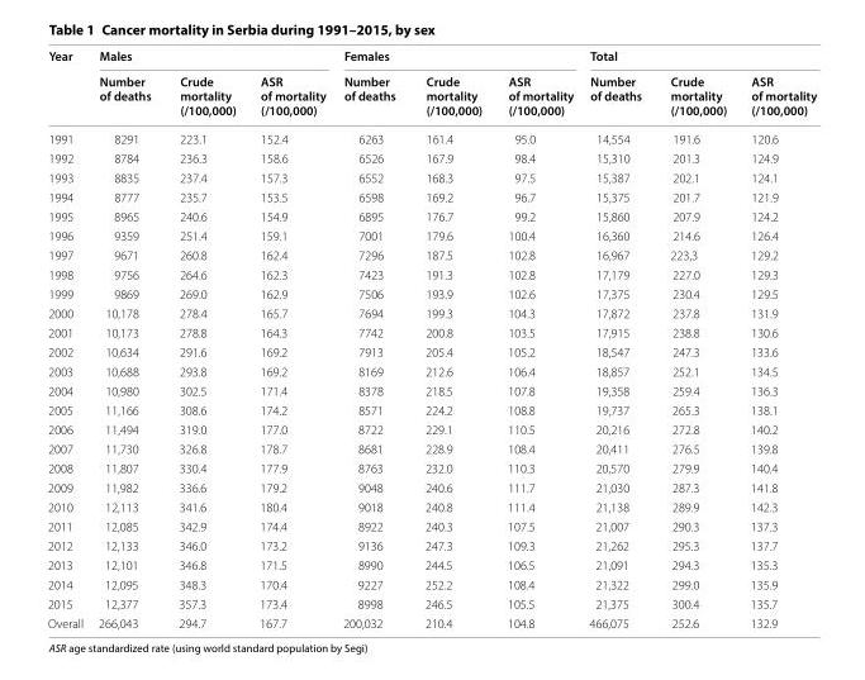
<table><thead><tr><td rowspan="2">Year</td><td colspan="3">Males</td><td colspan="3">Females</td><td colspan="3">Total</td></tr><tr><td>Number of deaths</td><td>Crude mortality (/100,000)</td><td>ASR of mortality (/100,000)</td><td>Number of deaths</td><td>Crude mortality (/100,000)</td><td>ASR of mortality (/100,000)</td><td>Number of deaths</td><td>Crude mortality (/100,000)</td><td>ASR of mortality (/100,000)</td></tr></thead><tbody><tr><td>1991</td><td>8291</td><td>223.1</td><td>152.4</td><td>6263</td><td>161.4</td><td>95.0</td><td>14,554</td><td>191.6</td><td>120.6</td></tr><tr><td>1992</td><td>8784</td><td>236.3</td><td>158.6</td><td>6526</td><td>167.9</td><td>98.4</td><td>15,310</td><td>201.3</td><td>124.9</td></tr><tr><td>1993</td><td>8835</td><td>237.4</td><td>157.3</td><td>6552</td><td>168.3</td><td>97.5</td><td>15,387</td><td>202.1</td><td>124.1</td></tr><tr><td>1994</td><td>8777</td><td>235.7</td><td>153.5</td><td>6598</td><td>169.2</td><td>96.7</td><td>15,375</td><td>201.7</td><td>121.9</td></tr><tr><td>1995</td><td>8965</td><td>240.6</td><td>154.9</td><td>6895</td><td>176.7</td><td>99.2</td><td>15,860</td><td>207.9</td><td>124.2</td></tr><tr><td>1996</td><td>9359</td><td>251.4</td><td>159.1</td><td>7001</td><td>179.6</td><td>100.4</td><td>16,360</td><td>214.6</td><td>126.4</td></tr><tr><td>1997</td><td>9671</td><td>260.8</td><td>162.4</td><td>7296</td><td>187.5</td><td>102.8</td><td>16,967</td><td>223,3</td><td>129.2</td></tr><tr><td>1998</td><td>9756</td><td>264.6</td><td>162.3</td><td>7423</td><td>191.3</td><td>102.8</td><td>17,179</td><td>227.0</td><td>129.3</td></tr><tr><td>1999</td><td>9869</td><td>269.0</td><td>162.9</td><td>7506</td><td>193.9</td><td>102.6</td><td>17,375</td><td>230.4</td><td>129.5</td></tr><tr><td>2000</td><td>10,178</td><td>278.4</td><td>165.7</td><td>7694</td><td>199.3</td><td>104.3</td><td>17,872</td><td>237.8</td><td>131.9</td></tr><tr><td>2001</td><td>10,173</td><td>278.8</td><td>164.3</td><td>7742</td><td>200.8</td><td>103.5</td><td>17,915</td><td>238.8</td><td>130.6</td></tr><tr><td>2002</td><td>10,634</td><td>291.6</td><td>169.2</td><td>7913</td><td>205.4</td><td>105.2</td><td>18,547</td><td>247.3</td><td>133.6</td></tr><tr><td>2003</td><td>10,688</td><td>293.8</td><td>169.2</td><td>8169</td><td>212.6</td><td>106.4</td><td>18,857</td><td>252.1</td><td>134.5</td></tr><tr><td>2004</td><td>10,980</td><td>302.5</td><td>171.4</td><td>8378</td><td>218.5</td><td>107.8</td><td>19,358</td><td>259.4</td><td>136.3</td></tr><tr><td>2005</td><td>11,166</td><td>308.6</td><td>174.2</td><td>8571</td><td>224.2</td><td>108.8</td><td>19,737</td><td>265.3</td><td>138.1</td></tr><tr><td>2006</td><td>11,494</td><td>319.0</td><td>177.0</td><td>8722</td><td>229.1</td><td>110.5</td><td>20,216</td><td>272.8</td><td>140.2</td></tr><tr><td>2007</td><td>11,730</td><td>326.8</td><td>178.7</td><td>8681</td><td>228.9</td><td>108.4</td><td>20,411</td><td>276.5</td><td>139.8</td></tr><tr><td>2008</td><td>11,807</td><td>330.4</td><td>177.9</td><td>8763</td><td>232.0</td><td>110.3</td><td>20,570</td><td>279.9</td><td>140.4</td></tr><tr><td>2009</td><td>11,982</td><td>336.6</td><td>179.2</td><td>9048</td><td>240.6</td><td>111.7</td><td>21,030</td><td>287.3</td><td>141.8</td></tr><tr><td>2010</td><td>12,113</td><td>341.6</td><td>180.4</td><td>9018</td><td>240.8</td><td>111.4</td><td>21,138</td><td>289.9</td><td>142.3</td></tr><tr><td>2011</td><td>12,085</td><td>342.9</td><td>174.4</td><td>8922</td><td>240.3</td><td>107.5</td><td>21,007</td><td>290.3</td><td>137.3</td></tr><tr><td>2012</td><td>12,133</td><td>346.0</td><td>173.2</td><td>9136</td><td>247.3</td><td>109.3</td><td>21,262</td><td>295.3</td><td>137.7</td></tr><tr><td>2013</td><td>12,101</td><td>346.8</td><td>171.5</td><td>8990</td><td>244.5</td><td>106.5</td><td>21,091</td><td>294.3</td><td>135.3</td></tr><tr><td>2014</td><td>12,095</td><td>348.3</td><td>170.4</td><td>9227</td><td>252.2</td><td>108.4</td><td>21,322</td><td>299.0</td><td>135.9</td></tr><tr><td>2015</td><td>12,377</td><td>357.3</td><td>173.4</td><td>8998</td><td>246.5</td><td>105.5</td><td>21,375</td><td>300.4</td><td>135.7</td></tr><tr><td>Overall</td><td>266,043</td><td>294.7</td><td>167.7</td><td>200,032</td><td>210.4</td><td>104.8</td><td>466,075</td><td>252.6</td><td>132.9</td></tr></tbody></table>